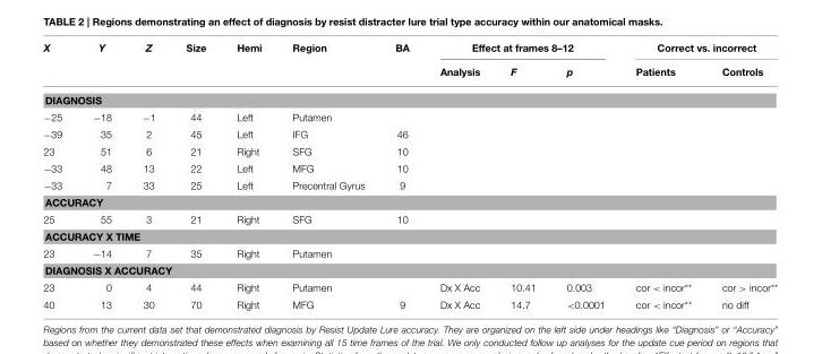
<table><thead><tr><td rowspan="2">X</td><td rowspan="2">Y</td><td rowspan="2">Z</td><td rowspan="2">Size</td><td rowspan="2">Hemi</td><td rowspan="2">Region</td><td rowspan="2">BA</td><td colspan="3">Effect at frames 8–12</td><td colspan="2">Correct vs. incorrect</td></tr><tr><td>Analysis</td><td>F</td><td>p</td><td>Patients</td><td>Controls</td></tr></thead><tbody><tr><td colspan="12">DIAGNOSIS</td></tr><tr><td>−25</td><td>−18</td><td>−1</td><td>44</td><td>Left</td><td>Putamen</td><td colspan="6"></td></tr><tr><td>−39</td><td>35</td><td>2</td><td>45</td><td>Left</td><td>IFG</td><td>46</td><td colspan="5"></td></tr><tr><td>23</td><td>51</td><td>6</td><td>21</td><td>Right</td><td>SFG</td><td>10</td><td colspan="5"></td></tr><tr><td>−33</td><td>48</td><td>13</td><td>22</td><td>Left</td><td>MFG</td><td>10</td><td colspan="5"></td></tr><tr><td>−33</td><td>7</td><td>33</td><td>25</td><td>Left</td><td>Precentral Gyrus</td><td>9</td><td colspan="5"></td></tr><tr><td colspan="12">ACCURACY</td></tr><tr><td>25</td><td>55</td><td>3</td><td>21</td><td>Right</td><td>SFG</td><td>10</td><td colspan="5"></td></tr><tr><td colspan="12">ACCURACY X TIME</td></tr><tr><td>23</td><td>−14</td><td>7</td><td>35</td><td>Right</td><td>Putamen</td><td></td><td colspan="5"></td></tr><tr><td colspan="12">DIAGNOSIS X ACCURACY</td></tr><tr><td>23</td><td>0</td><td>4</td><td>44</td><td>Right</td><td>Putamen</td><td></td><td>Dx X Acc</td><td>10.41</td><td>0.003</td><td>cor &lt; incor**</td><td>cor &gt; incor**</td></tr><tr><td>40</td><td>13</td><td>30</td><td>70</td><td>Right</td><td>MFG</td><td>9</td><td>Dx X Acc</td><td>14.7</td><td>&lt;0.0001</td><td>cor &lt; incor**</td><td>no diff</td></tr></tbody></table>